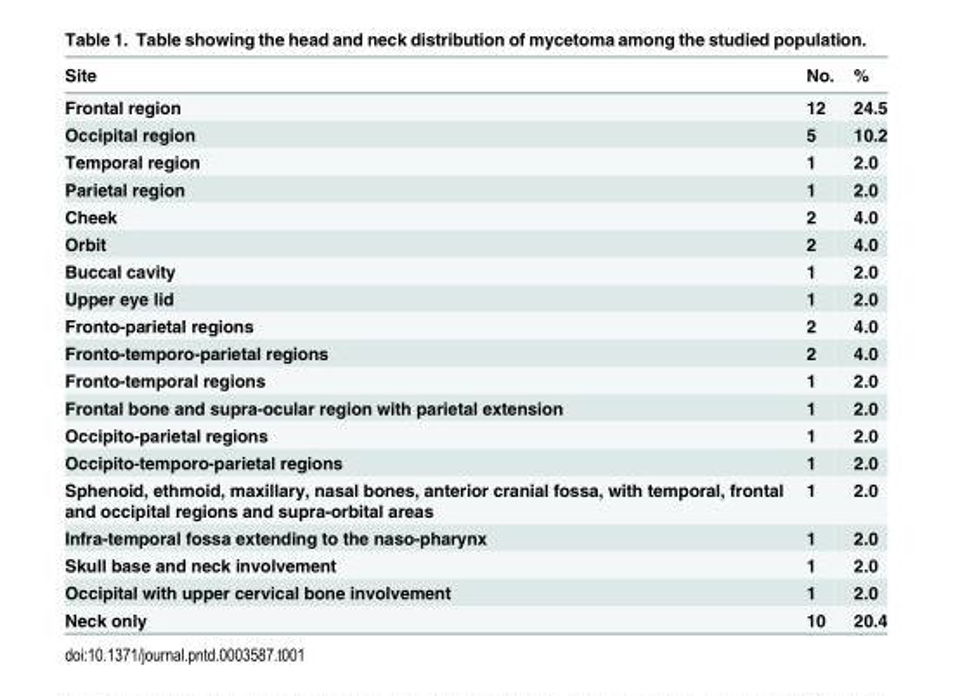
<table><thead><tr><td>Site</td><td>No.</td><td>%</td></tr></thead><tbody><tr><td>Frontal region</td><td>12</td><td>24.5</td></tr><tr><td>Occipital region</td><td>5</td><td>10.2</td></tr><tr><td>Temporal region</td><td>1</td><td>2.0</td></tr><tr><td>Parietal region</td><td>1</td><td>2.0</td></tr><tr><td>Cheek</td><td>2</td><td>4.0</td></tr><tr><td>Orbit</td><td>2</td><td>4.0</td></tr><tr><td>Buccal cavity</td><td>1</td><td>2.0</td></tr><tr><td>Upper eye lid</td><td>1</td><td>2.0</td></tr><tr><td>Fronto-parietal regions</td><td>2</td><td>4.0</td></tr><tr><td>Fronto-temporo-parietal regions</td><td>2</td><td>4.0</td></tr><tr><td>Fronto-temporal regions</td><td>1</td><td>2.0</td></tr><tr><td>Frontal bone and supra-ocular region with parietal extension</td><td>1</td><td>2.0</td></tr><tr><td>Occipito-parietal regions</td><td>1</td><td>2.0</td></tr><tr><td>Occipito-temporo-parietal regions</td><td>1</td><td>2.0</td></tr><tr><td>Sphenoid, ethmoid, maxillary, nasal bones, anterior cranial fossa, with temporal, frontal and occipital regions and supra-orbital areas</td><td>1</td><td>2.0</td></tr><tr><td>Infra-temporal fossa extending to the naso-pharynx</td><td>1</td><td>2.0</td></tr><tr><td>Skull base and neck involvement</td><td>1</td><td>2.0</td></tr><tr><td>Occipital with upper cervical bone involvement</td><td>1</td><td>2.0</td></tr><tr><td>Neck only</td><td>10</td><td>20.4</td></tr></tbody></table>